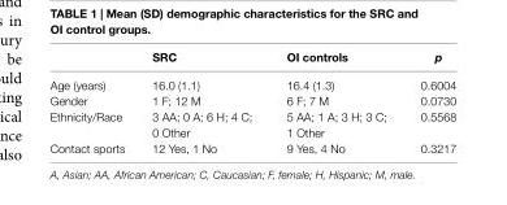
<table><thead><tr><td></td><td>src</td><td>Oi controls</td><td>p</td></tr></thead><tbody><tr><td>Age (years)</td><td>16.0 (1.1)</td><td>16.4 (1.3)</td><td>0.6004</td></tr><tr><td>Gender</td><td>1 F; 12 M</td><td>6 F; 7 M</td><td>0.0730</td></tr><tr><td>Ethnicity/Race</td><td>3 AA; 0 A; 6 H; 4 C; 0 Other</td><td>5 AA; 1 A; 3 H; 3 C; 1 Other</td><td>0.5568</td></tr><tr><td>Contact sports</td><td>12 Yes, 1 No</td><td>9 Yes, 4 No</td><td>0.3217</td></tr></tbody></table>